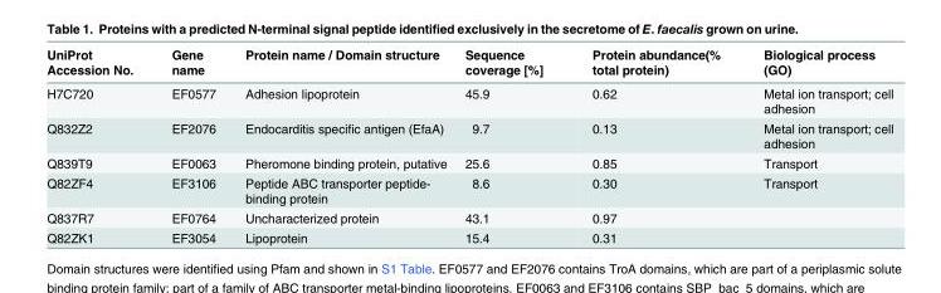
<table><thead><tr><td>UniProt Accession No.</td><td>Gene name</td><td>Protein name / Domain structure</td><td>Sequence coverage [%]</td><td>Protein abundance(% total protein)</td><td>Biological process (GO)</td></tr></thead><tbody><tr><td>H7C720</td><td>EF0577</td><td>Adhesion lipoprotein</td><td>45.9</td><td>0.62</td><td>Metal ion transport; cell adhesion</td></tr><tr><td>Q832Z2</td><td>EF2076</td><td>Endocarditis specific antigen (EfaA)</td><td>9.7</td><td>0.13</td><td>Metal ion transport; cell adhesion</td></tr><tr><td>Q839T9</td><td>EF0063</td><td>Pheromone binding protein, putative</td><td>25.6</td><td>0.85</td><td>Transport</td></tr><tr><td>Q82ZF4</td><td>EF3106</td><td>Peptide ABC transporter peptide- binding protein</td><td>8.6</td><td>0.30</td><td>Transport</td></tr><tr><td>Q837R7</td><td>EF0764</td><td>Uncharacterized protein</td><td>43.1</td><td>0.97</td><td></td></tr><tr><td>Q82ZK1</td><td>EF3054</td><td>Lipoprotein</td><td>15.4</td><td>0.31</td><td></td></tr></tbody></table>